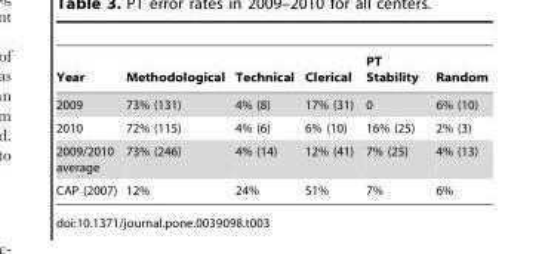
<table><thead><tr><td>Year</td><td>Methodological</td><td>Technical</td><td>Clerical</td><td>PT Stability</td><td>Random</td></tr></thead><tbody><tr><td>2009</td><td>73% (131)</td><td>4% (8)</td><td>17% (31)</td><td>0</td><td>6% (10)</td></tr><tr><td>2010</td><td>72% (115)</td><td>4% (6)</td><td>6% (10)</td><td>16% (25)</td><td>2% (3)</td></tr><tr><td>2009/2010 average</td><td>73% (246)</td><td>4% (14)</td><td>12% (41)</td><td>7% (25)</td><td>4% (13)</td></tr><tr><td>CAP (2007)</td><td>12%</td><td>24%</td><td>51%</td><td>7%</td><td>6%</td></tr></tbody></table>